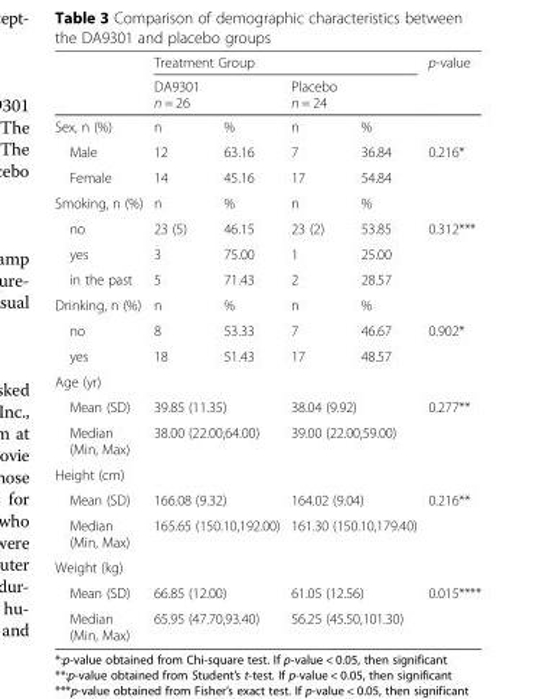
<table><thead><tr><td rowspan="4">Sex, n (%)</td><td colspan="4">Treatment Group</td><td rowspan="4">p-value</td></tr><tr><td rowspan="2" colspan="2">DA9301 n = 26</td><td rowspan="2" colspan="2">Placebo n = 24</td></tr><tr></tr><tr><td>n</td><td>%</td><td>n</td><td>%</td></tr></thead><tbody><tr><td>Male</td><td>12</td><td>63.16</td><td>7</td><td>36.84</td><td rowspan="2">0.216*</td></tr><tr><td>Female</td><td>14</td><td>45.16</td><td>17</td><td>54.84</td></tr><tr><td>Smoking, n (%)</td><td>n</td><td>%</td><td>n</td><td>%</td><td></td></tr><tr><td>no</td><td>23 (5)</td><td>46.15</td><td>23 (2)</td><td>53.85</td><td rowspan="3">0.312***</td></tr><tr><td>yes</td><td>3</td><td>75.00</td><td>1</td><td>25.00</td></tr><tr><td>in the past</td><td>5</td><td>71.43</td><td>2</td><td>28.57</td></tr><tr><td>Drinking, n (%)</td><td>n</td><td>%</td><td>n</td><td>%</td><td></td></tr><tr><td>no</td><td>8</td><td>53.33</td><td>7</td><td>46.67</td><td rowspan="2">0.902*</td></tr><tr><td>yes</td><td>18</td><td>51.43</td><td>17</td><td>48.57</td></tr><tr><td colspan="6">Age (yr)</td></tr><tr><td>Mean (SD)</td><td colspan="2">39.85 (11.35)</td><td colspan="2">38.04 (9.92)</td><td rowspan="2">0.277**</td></tr><tr><td>Median (Min, Max)</td><td colspan="2">38.00 (22.00,64.00)</td><td colspan="2">39.00 (22.00,59.00)</td></tr><tr><td colspan="6">Height (cm)</td></tr><tr><td>Mean (SD)</td><td colspan="2">166.08 (9.32)</td><td colspan="2">164.02 (9.04)</td><td rowspan="2">0.216**</td></tr><tr><td>Median (Min, Max)</td><td colspan="2">165.65 (150.10,192.00)</td><td colspan="2">161.30 (150.10,179.40)</td></tr><tr><td colspan="6">Weight (kg)</td></tr><tr><td>Mean (SD)</td><td colspan="2">66.85 (12.00)</td><td colspan="2">61.05 (12.56)</td><td rowspan="2">0.015****</td></tr><tr><td>Median (Min, Max)</td><td colspan="2">65.95 (47.70,93.40)</td><td colspan="2">56.25 (45.50,101.30)</td></tr></tbody></table>